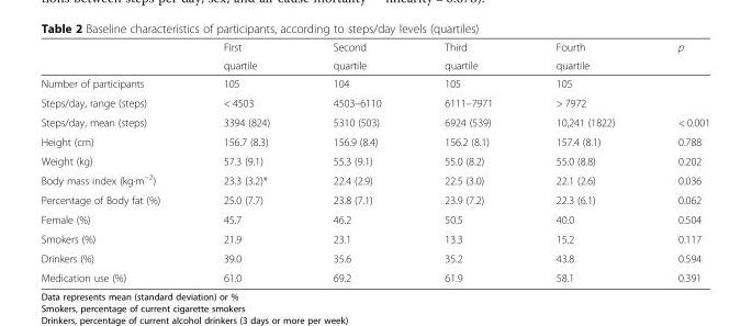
<table><thead><tr><td rowspan="2"></td><td rowspan="2">First quartile</td><td rowspan="2">Second quartile</td><td rowspan="2">Third quartile</td><td rowspan="2">Fourth quartile</td><td rowspan="2">p</td></tr><tr></tr></thead><tbody><tr><td>Number of participants</td><td>105</td><td>104</td><td>105</td><td>105</td><td></td></tr><tr><td>Steps/day, range (steps)</td><td>&lt; 4503</td><td>4503–6110</td><td>6111–7971</td><td>&gt; 7972</td><td></td></tr><tr><td>Steps/day, mean (steps)</td><td>3394 (824)</td><td>5310 (503)</td><td>6924 (539)</td><td>10,241 (1822)</td><td>&lt; 0.001</td></tr><tr><td>Height (cm)</td><td>156.7 (8.3)</td><td>156.9 (8.4)</td><td>156.2 (8.1)</td><td>157.4 (8.1)</td><td>0.788</td></tr><tr><td>Weight (kg)</td><td>57.3 (9.1)</td><td>55.3 (9.1)</td><td>55.0 (8.2)</td><td>55.0 (8.8)</td><td>0.202</td></tr><tr><td>Body mass index (kg·m<sup>−2</sup>)</td><td>23.3 (3.2)*</td><td>22.4 (2.9)</td><td>22.5 (3.0)</td><td>22.1 (2.6)</td><td>0.036</td></tr><tr><td>Percentage of Body fat (%)</td><td>25.0 (7.7)</td><td>23.8 (7.1)</td><td>23.9 (7.2)</td><td>22.3 (6.1)</td><td>0.062</td></tr><tr><td>Female (%)</td><td>45.7</td><td>46.2</td><td>50.5</td><td>40.0</td><td>0.504</td></tr><tr><td>Smokers (%)</td><td>21.9</td><td>23.1</td><td>13.3</td><td>15.2</td><td>0.117</td></tr><tr><td>Drinkers (%)</td><td>39.0</td><td>35.6</td><td>35.2</td><td>43.8</td><td>0.594</td></tr><tr><td>Medication use (%)</td><td>61.0</td><td>69.2</td><td>61.9</td><td>58.1</td><td>0.391</td></tr></tbody></table>